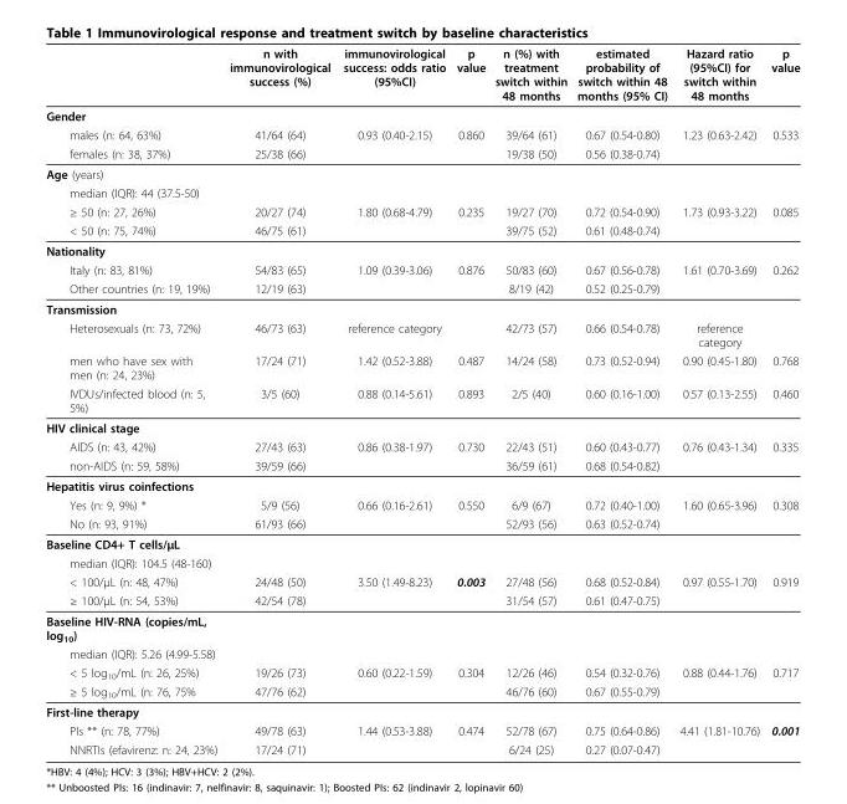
<table><thead><tr><td></td><td>n with immunovirological success (%)</td><td>immunovirological success: odds ratio (95%CI)</td><td>p value</td><td>n (%) with treatment switch within 48 months</td><td>estimated probability of switch within 48 months (95% CI)</td><td>Hazard ratio (95%CI) for switch within 48 months</td><td>p value</td></tr></thead><tbody><tr><td colspan="8">Gender</td></tr><tr><td>males (n: 64, 63%)</td><td>41/64 (64)</td><td>0.93 (0.40-2.15)</td><td>0.860</td><td>39/64 (61)</td><td>0.67 (0.54-0.80)</td><td>1.23 (0.63-2.42)</td><td>0.533</td></tr><tr><td>females (n: 38, 37%)</td><td>25/38 (66)</td><td></td><td></td><td>19/38 (50)</td><td>0.56 (0.38-0.74)</td><td></td><td></td></tr><tr><td colspan="8">Age (years)</td></tr><tr><td colspan="8">median (IQR): 44 (37.5-50)</td></tr><tr><td>≥ 50 (n: 27, 26%)</td><td>20/27 (74)</td><td>1.80 (0.68-4.79)</td><td>0.235</td><td>19/27 (70)</td><td>0.72 (0.54-0.90)</td><td>1.73 (0.93-3.22)</td><td>0.085</td></tr><tr><td>&lt; 50 (n: 75, 74%)</td><td>46/75 (61)</td><td></td><td></td><td>39/75 (52)</td><td>0.61 (0.48-0.74)</td><td></td><td></td></tr><tr><td colspan="8">Nationality</td></tr><tr><td>Italy (n: 83, 81%)</td><td>54/83 (65)</td><td>1.09 (0.39-3.06)</td><td>0.876</td><td>50/83 (60)</td><td>0.67 (0.56-0.78)</td><td>1.61 (0.70-3.69)</td><td>0.262</td></tr><tr><td>Other countries (n: 19, 19%)</td><td>12/19 (63)</td><td></td><td></td><td>8/19 (42)</td><td>0.52 (0.25-0.79)</td><td></td><td></td></tr><tr><td colspan="8">Transmission</td></tr><tr><td>Heterosexuals (n: 73, 72%)</td><td>46/73 (63)</td><td>reference category</td><td></td><td>42/73 (57)</td><td>0.66 (0.54-0.78)</td><td>reference category</td><td></td></tr><tr><td>men who have sex with men (n: 24, 23%)</td><td>17/24 (71)</td><td>1.42 (0.52-3.88)</td><td>0.487</td><td>14/24 (58)</td><td>0.73 (0.52-0.94)</td><td>0.90 (0.45-1.80)</td><td>0.768</td></tr><tr><td>IVDUs/infected blood (n: 5, 5%)</td><td>3/5 (60)</td><td>0.88 (0.14-5.61)</td><td>0.893</td><td>2/5 (40)</td><td>0.60 (0.16-1.00)</td><td>0.57 (0.13-2.55)</td><td>0.460</td></tr><tr><td colspan="8">HIV clinical stage</td></tr><tr><td>AIDS (n: 43, 42%)</td><td>27/43 (63)</td><td>0.86 (0.38-1.97)</td><td>0.730</td><td>22/43 (51)</td><td>0.60 (0.43-0.77)</td><td>0.76 (0.43-1.34)</td><td>0.335</td></tr><tr><td>non-AIDS (n: 59, 58%)</td><td>39/59 (66)</td><td></td><td></td><td>36/59 (61)</td><td>0.68 (0.54-0.82)</td><td></td><td></td></tr><tr><td colspan="8">Hepatitis virus coinfections</td></tr><tr><td>Yes (n: 9, 9%) *</td><td>5/9 (56)</td><td>0.66 (0.16-2.61)</td><td>0.550</td><td>6/9 (67)</td><td>0.72 (0.40-1.00)</td><td>1.60 (0.65-3.96)</td><td>0.308</td></tr><tr><td>No (n: 93, 91%)</td><td>61/93 (66)</td><td></td><td></td><td>52/93 (56)</td><td>0.63 (0.52-0.74)</td><td></td><td></td></tr><tr><td colspan="8">Baseline CD4+ T cells/μL</td></tr><tr><td colspan="8">median (IQR): 104.5 (48-160)</td></tr><tr><td>&lt; 100/μL (n: 48, 47%)</td><td>24/48 (50)</td><td>3.50 (1.49-8.23)</td><td>0.003</td><td>27/48 (56)</td><td>0.68 (0.52-0.84)</td><td>0.97 (0.55-1.70)</td><td>0.919</td></tr><tr><td>≥ 100/μL (n: 54, 53%)</td><td>42/54 (78)</td><td></td><td></td><td>31/54 (57)</td><td>0.61 (0.47-0.75)</td><td></td><td></td></tr><tr><td colspan="8">Baseline HIV-RNA (copies/mL, log<sub>10</sub>)</td></tr><tr><td colspan="8">median (IQR): 5.26 (4.99-5.58)</td></tr><tr><td>&lt; 5 log<sub>10</sub>/mL (n: 26, 25%)</td><td>19/26 (73)</td><td>0.60 (0.22-1.59)</td><td>0.304</td><td>12/26 (46)</td><td>0.54 (0.32-0.76)</td><td>0.88 (0.44-1.76)</td><td>0.717</td></tr><tr><td>≥ 5 log<sub>10</sub>/mL (n: 76, 75%</td><td>47/76 (62)</td><td></td><td></td><td>46/76 (60)</td><td>0.67 (0.55-0.79)</td><td></td><td></td></tr><tr><td colspan="8">First-line therapy</td></tr><tr><td>PIs ** (n: 78, 77%)</td><td>49/78 (63)</td><td>1.44 (0.53-3.88)</td><td>0.474</td><td>52/78 (67)</td><td>0.75 (0.64-0.86)</td><td>4.41 (1.81-10.76)</td><td>0.001</td></tr><tr><td>NNRTIs (efavirenz: n: 24, 23%)</td><td>17/24 (71)</td><td></td><td></td><td>6/24 (25)</td><td>0.27 (0.07-0.47)</td><td></td><td></td></tr></tbody></table>